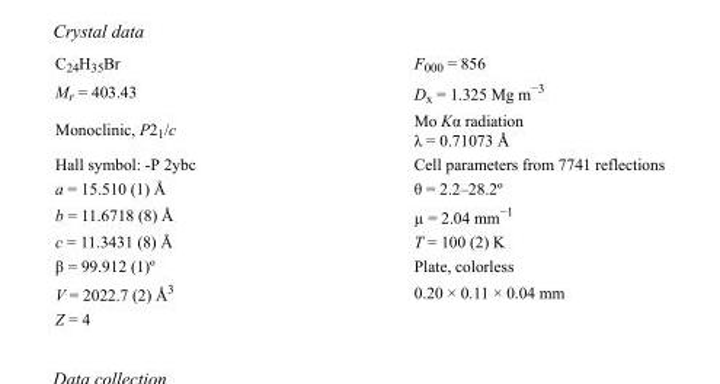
<table><tbody><tr><td>C<sub>24</sub>H<sub>35</sub>Br</td><td>F<sub>000</sub> = 856</td></tr><tr><td>M<sub>r</sub> = 403.43</td><td>D<sub>x</sub> = 1.325 Mg m<sup>−3</sup></td></tr><tr><td>Monoclinic, P2<sub>1</sub>/c</td><td>Mo Kα radiation λ = 0.71073 Å</td></tr><tr><td>Hall symbol: -P 2ybc</td><td>Cell parameters from 7741 reflections</td></tr><tr><td>a = 15.510 (1) Å</td><td>θ = 2.2–28.2º</td></tr><tr><td>b = 11.6718 (8) Å</td><td>µ = 2.04 mm<sup>−1</sup></td></tr><tr><td>c = 11.3431 (8) Å</td><td>T = 100 (2) K</td></tr><tr><td>β = 99.912 (1)º</td><td>Plate, colorless</td></tr><tr><td>V = 2022.7 (2) Å<sup>3</sup></td><td>0.20 × 0.11 × 0.04 mm</td></tr><tr><td>Z = 4</td><td></td></tr></tbody></table>